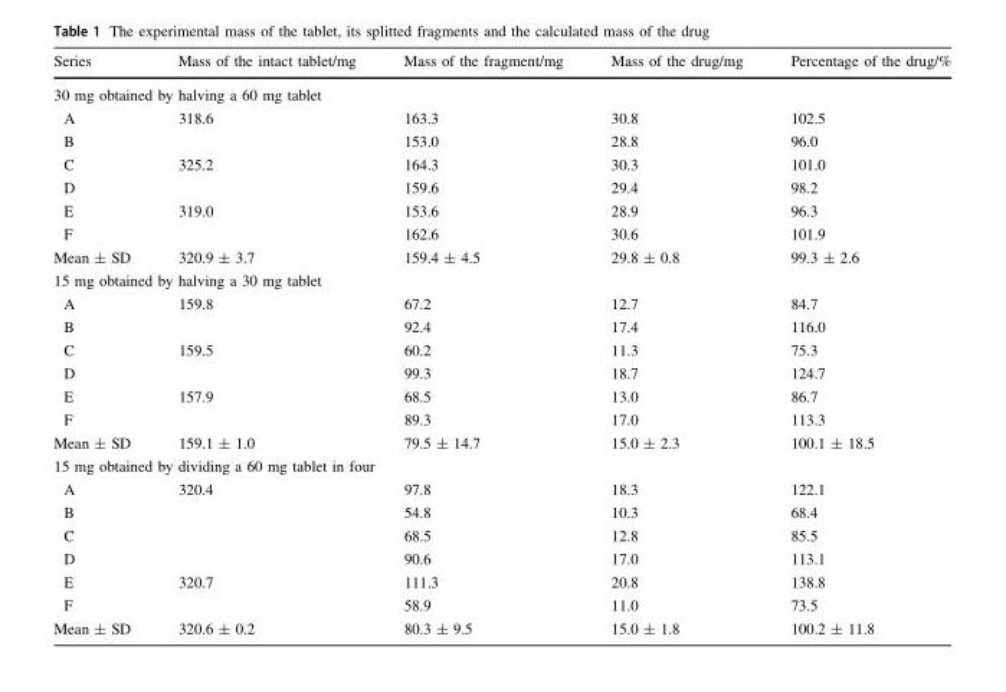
<table><thead><tr><td>Series</td><td>Mass of the intact tablet/mg</td><td>Mass of the fragment/mg</td><td>Mass of the drug/mg</td><td>Percentage of the drug/%</td></tr></thead><tbody><tr><td colspan="5">30 mg obtained by halving a 60 mg tablet</td></tr><tr><td>A</td><td rowspan="2">318.6</td><td>163.3</td><td>30.8</td><td>102.5</td></tr><tr><td>B</td><td>153.0</td><td>28.8</td><td>96.0</td></tr><tr><td>C</td><td rowspan="2">325.2</td><td>164.3</td><td>30.3</td><td>101.0</td></tr><tr><td>D</td><td>159.6</td><td>29.4</td><td>98.2</td></tr><tr><td>E</td><td rowspan="2">319.0</td><td>153.6</td><td>28.9</td><td>96.3</td></tr><tr><td>F</td><td>162.6</td><td>30.6</td><td>101.9</td></tr><tr><td>Mean ± SD</td><td>320.9 ± 3.7</td><td>159.4 ± 4.5</td><td>29.8 ± 0.8</td><td>99.3 ± 2.6</td></tr><tr><td colspan="5">15 mg obtained by halving a 30 mg tablet</td></tr><tr><td>A</td><td rowspan="2">159.8</td><td>67.2</td><td>12.7</td><td>84.7</td></tr><tr><td>B</td><td>92.4</td><td>17.4</td><td>116.0</td></tr><tr><td>C</td><td rowspan="2">159.5</td><td>60.2</td><td>11.3</td><td>75.3</td></tr><tr><td>D</td><td>99.3</td><td>18.7</td><td>124.7</td></tr><tr><td>E</td><td rowspan="2">157.9</td><td>68.5</td><td>13.0</td><td>86.7</td></tr><tr><td>F</td><td>89.3</td><td>17.0</td><td>113.3</td></tr><tr><td>Mean ± SD</td><td>159.1 ± 1.0</td><td>79.5 ± 14.7</td><td>15.0 ± 2.3</td><td>100.1 ± 18.5</td></tr><tr><td colspan="5">15 mg obtained by dividing a 60 mg tablet in four</td></tr><tr><td>A</td><td rowspan="4">320.4</td><td>97.8</td><td>18.3</td><td>122.1</td></tr><tr><td>B</td><td>54.8</td><td>10.3</td><td>68.4</td></tr><tr><td>C</td><td>68.5</td><td>12.8</td><td>85.5</td></tr><tr><td>D</td><td>90.6</td><td>17.0</td><td>113.1</td></tr><tr><td>E</td><td rowspan="2">320.7</td><td>111.3</td><td>20.8</td><td>138.8</td></tr><tr><td>F</td><td>58.9</td><td>11.0</td><td>73.5</td></tr><tr><td>Mean ± SD</td><td>320.6 ± 0.2</td><td>80.3 ± 9.5</td><td>15.0 ± 1.8</td><td>100.2 ± 11.8</td></tr></tbody></table>